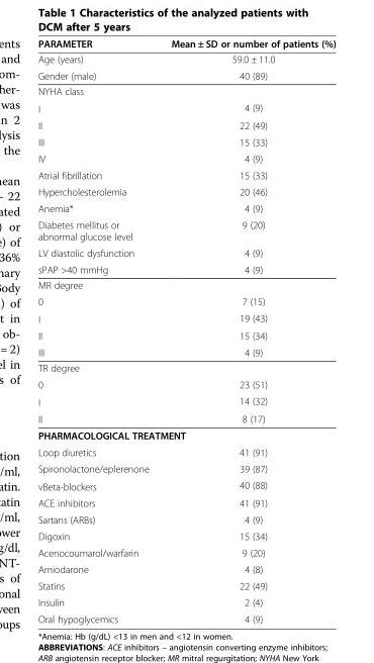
<table><thead><tr><td>PARAMETER</td><td>Mean ± SD or number of patients (%)</td></tr></thead><tbody><tr><td>Age (years)</td><td>59.0 ± 11.0</td></tr><tr><td>Gender (male)</td><td>40 (89)</td></tr><tr><td colspan="2">NYHA class</td></tr><tr><td>I</td><td>4 (9)</td></tr><tr><td>II</td><td>22 (49)</td></tr><tr><td>III</td><td>15 (33)</td></tr><tr><td>IV</td><td>4 (9)</td></tr><tr><td>Atrial fibrillation</td><td>15 (33)</td></tr><tr><td>Hypercholesterolemia</td><td>20 (46)</td></tr><tr><td>Anemia*</td><td>4 (9)</td></tr><tr><td>Diabetes mellitus or abnormal glucose level</td><td>9 (20)</td></tr><tr><td>LV diastolic dysfunction</td><td>4 (9)</td></tr><tr><td>sPAP &gt;40 mmHg</td><td>4 (9)</td></tr><tr><td colspan="2">MR degree</td></tr><tr><td>0</td><td>7 (15)</td></tr><tr><td>I</td><td>19 (43)</td></tr><tr><td>II</td><td>15 (34)</td></tr><tr><td>III</td><td>4 (9)</td></tr><tr><td colspan="2">TR degree</td></tr><tr><td>0</td><td>23 (51)</td></tr><tr><td>I</td><td>14 (32)</td></tr><tr><td>II</td><td>8 (17)</td></tr><tr><td colspan="2">PHARMACOLOGICAL TREATMENT</td></tr><tr><td>Loop diuretics</td><td>41 (91)</td></tr><tr><td>Spironolactone/eplerenone</td><td>39 (87)</td></tr><tr><td>vBeta-blockers</td><td>40 (88)</td></tr><tr><td>ACE inhibitors</td><td>41 (91)</td></tr><tr><td>Sartans (ARBs)</td><td>4 (9)</td></tr><tr><td>Digoxin</td><td>15 (34)</td></tr><tr><td>Acenocoumarol/warfarin</td><td>9 (20)</td></tr><tr><td>Amiodarone</td><td>4 (8)</td></tr><tr><td>Statins</td><td>22 (49)</td></tr><tr><td>Insulin</td><td>2 (4)</td></tr><tr><td>Oral hypoglycemics</td><td>4 (9)</td></tr></tbody></table>